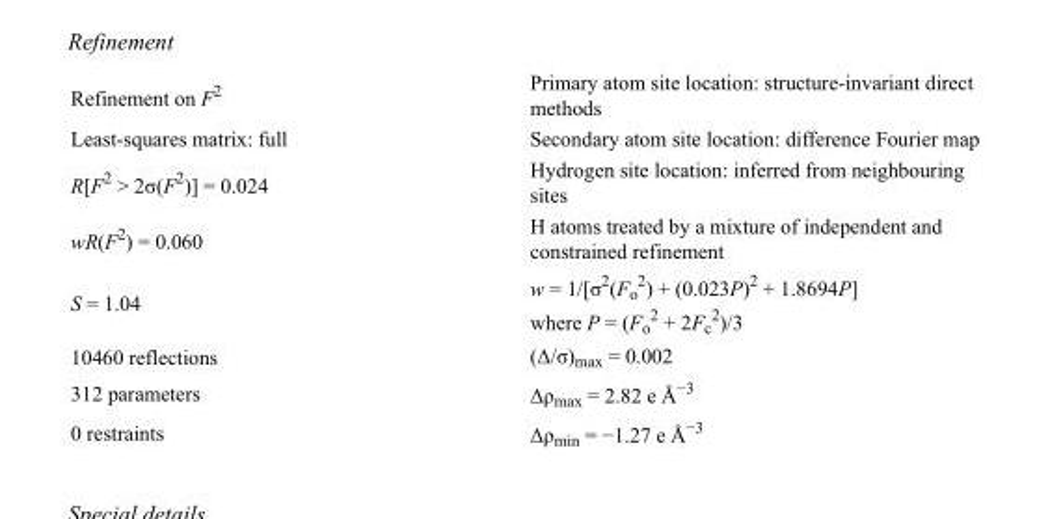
<table><tbody><tr><td>Refinement on F<sup>2</sup></td><td>Primary atom site location: structure-invariant direct methods</td></tr><tr><td>Least-squares matrix: full</td><td>Secondary atom site location: difference Fourier map</td></tr><tr><td>R[F<sup>2</sup> &gt; 2σ(F<sup>2</sup>)] = 0.024</td><td>Hydrogen site location: inferred from neighbouring sites</td></tr><tr><td>wR(F<sup>2</sup>) = 0.060</td><td>H atoms treated by a mixture of independent and constrained refinement</td></tr><tr><td>S = 1.04</td><td>w = 1/[σ<sup>2</sup>(F<sub>o</sub> <sup>2</sup>) + (0.023P)<sup>2</sup> + 1.8694P] where P = (F<sub>o</sub> <sup>2</sup> + 2F<sub>c</sub> <sup>2</sup>)/3</td></tr><tr><td>10460 reflections</td><td>(Δ/σ)<sub>max</sub> = 0.002</td></tr><tr><td>312 parameters</td><td>Δρ<sub>max</sub> = 2.82 e Å<sup>−3</sup></td></tr><tr><td>0 restraints</td><td>Δρ<sub>min</sub> = −1.27 e Å<sup>−3</sup></td></tr></tbody></table>